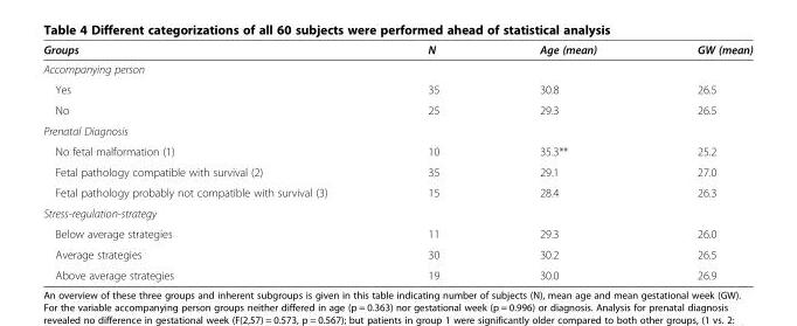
<table><thead><tr><td>Groups</td><td>N</td><td>Age (mean)</td><td>GW (mean)</td></tr></thead><tbody><tr><td colspan="4">Accompanying person</td></tr><tr><td>Yes</td><td>35</td><td>30.8</td><td>26.5</td></tr><tr><td>No</td><td>25</td><td>29.3</td><td>26.5</td></tr><tr><td colspan="4">Prenatal Diagnosis</td></tr><tr><td>No fetal malformation (1)</td><td>10</td><td>35.3**</td><td>25.2</td></tr><tr><td>Fetal pathology compatible with survival (2)</td><td>35</td><td>29.1</td><td>27.0</td></tr><tr><td>Fetal pathology probably not compatible with survival (3)</td><td>15</td><td>28.4</td><td>26.3</td></tr><tr><td colspan="4">Stress-regulation-strategy</td></tr><tr><td>Below average strategies</td><td>11</td><td>29.3</td><td>26.0</td></tr><tr><td>Average strategies</td><td>30</td><td>30.2</td><td>26.5</td></tr><tr><td>Above average strategies</td><td>19</td><td>30.0</td><td>26.9</td></tr></tbody></table>